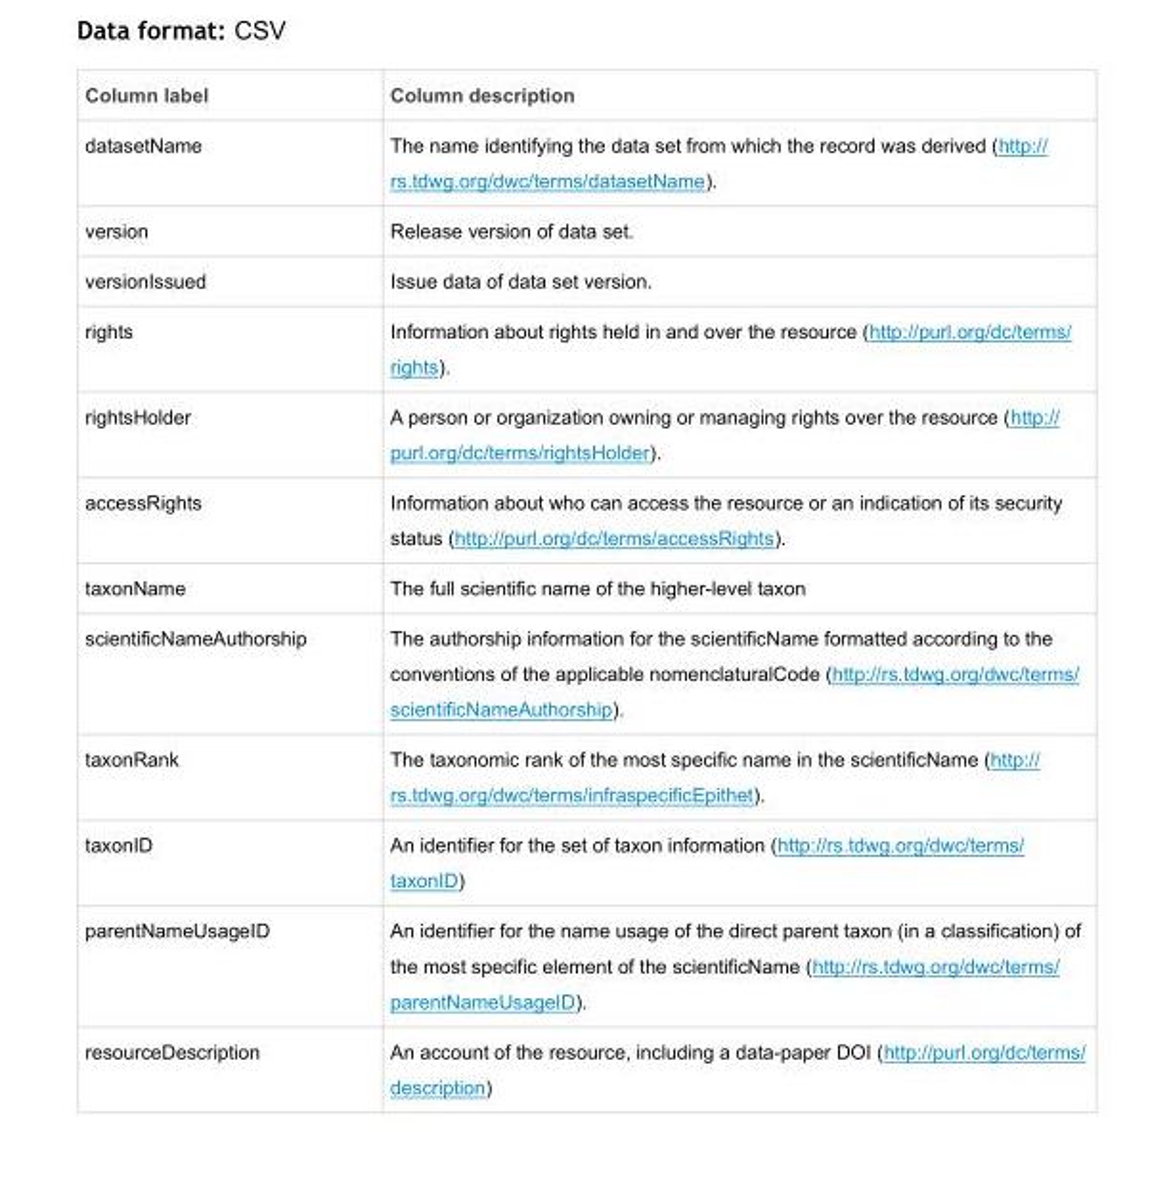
<table><thead><tr><td>Column label</td><td>Column description</td></tr></thead><tbody><tr><td>datasetName</td><td>The name identifying the data set from which the record was derived (http:// rs.tdwg.org/dwc/terms/datasetName).</td></tr><tr><td>version</td><td>Release version of data set.</td></tr><tr><td>versionIssued</td><td>Issue data of data set version.</td></tr><tr><td>rights</td><td>Information about rights held in and over the resource (http://purl.org/dc/terms/ rights).</td></tr><tr><td>rightsHolder</td><td>A person or organization owning or managing rights over the resource (http:// purl.org/dc/terms/rightsHolder).</td></tr><tr><td>accessRights</td><td>Information about who can access the resource or an indication of its security status (http://purl.org/dc/terms/accessRights).</td></tr><tr><td>taxonName</td><td>The full scientific name of the higher-level taxon</td></tr><tr><td>scientificNameAuthorship</td><td>The authorship information for the scientificName formatted according to the conventions of the applicable nomenclaturalCode (http://rs.tdwg.org/dwc/terms/ scientificNameAuthorship).</td></tr><tr><td>taxonRank</td><td>The taxonomic rank of the most specific name in the scientificName (http:// rs.tdwg.org/dwc/terms/infraspecificEpithet).</td></tr><tr><td>taxonID</td><td>An identifier for the set of taxon information (http://rs.tdwg.org/dwc/terms/ taxonID)</td></tr><tr><td>parentNameUsageID</td><td>An identifier for the name usage of the direct parent taxon (in a classification) of the most specific element of the scientificName (http://rs.tdwg.org/dwc/terms/ parentNameUsageID).</td></tr><tr><td>resourceDescription</td><td>An account of the resource, including a data-paper DOI (http://purl.org/dc/terms/ description)</td></tr></tbody></table>